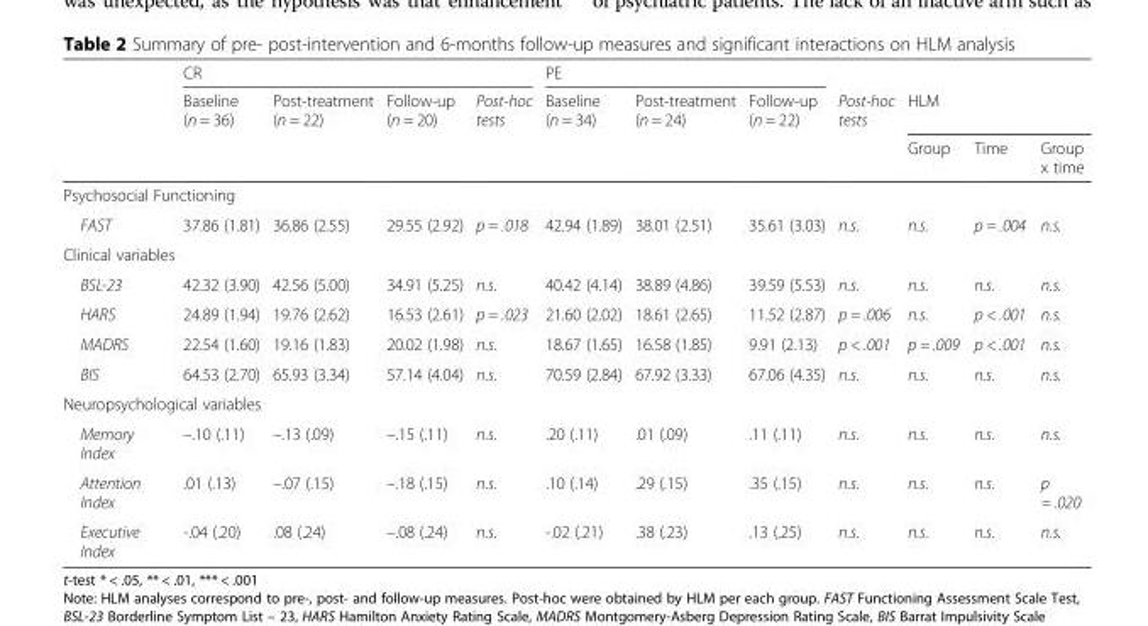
<table><thead><tr><td rowspan="3"></td><td colspan="4">CR</td><td colspan="3">PE</td><td rowspan="3">Post-hoc tests</td><td></td><td></td><td></td></tr><tr><td rowspan="2">Baseline (n = 36)</td><td rowspan="2">Post-treatment (n = 22)</td><td rowspan="2">Follow-up (n = 20)</td><td rowspan="2">Post-hoc tests</td><td rowspan="2">Baseline (n = 34)</td><td rowspan="2">Post-treatment (n = 24)</td><td rowspan="2">Follow-up (n = 22)</td><td colspan="3">HLM</td></tr><tr><td>Group</td><td>Time</td><td>Group x time</td></tr></thead><tbody><tr><td colspan="12">Psychosocial Functioning</td></tr><tr><td>FAST</td><td>37.86 (1.81)</td><td>36.86 (2.55)</td><td>29.55 (2.92)</td><td>p = .018</td><td>42.94 (1.89)</td><td>38.01 (2.51)</td><td>35.61 (3.03)</td><td>n.s.</td><td>n.s.</td><td>p = .004</td><td>n.s.</td></tr><tr><td colspan="12">Clinical variables</td></tr><tr><td>BSL-23</td><td>42.32 (3.90)</td><td>42.56 (5.00)</td><td>34.91 (5.25)</td><td>n.s.</td><td>40.42 (4.14)</td><td>38.89 (4.86)</td><td>39.59 (5.53)</td><td>n.s.</td><td>n.s.</td><td>n.s.</td><td>n.s.</td></tr><tr><td>HARS</td><td>24.89 (1.94)</td><td>19.76 (2.62)</td><td>16.53 (2.61)</td><td>p = .023</td><td>21.60 (2.02)</td><td>18.61 (2.65)</td><td>11.52 (2.87)</td><td>p = .006</td><td>n.s.</td><td>p &lt; .001</td><td>n.s.</td></tr><tr><td>MADRS</td><td>22.54 (1.60)</td><td>19.16 (1.83)</td><td>20.02 (1.98)</td><td>n.s.</td><td>18.67 (1.65)</td><td>16.58 (1.85)</td><td>9.91 (2.13)</td><td>p &lt; .001</td><td>p = .009</td><td>p &lt; .001</td><td>n.s.</td></tr><tr><td>BIS</td><td>64.53 (2.70)</td><td>65.93 (3.34)</td><td>57.14 (4.04)</td><td>n.s.</td><td>70.59 (2.84)</td><td>67.92 (3.33)</td><td>67.06 (4.35)</td><td>n.s.</td><td>n.s.</td><td>n.s.</td><td>n.s.</td></tr><tr><td colspan="12">Neuropsychological variables</td></tr><tr><td>Memory Index</td><td>–.10 (.11)</td><td>–.13 (.09)</td><td>–.15 (.11)</td><td>n.s.</td><td>.20 (.11)</td><td>.01 (.09)</td><td>.11 (.11)</td><td>n.s.</td><td>n.s.</td><td>n.s.</td><td>n.s.</td></tr><tr><td>Attention Index</td><td>.01 (.13)</td><td>–.07 (.15)</td><td>–.18 (.15)</td><td>n.s.</td><td>.10 (.14)</td><td>.29 (.15)</td><td>.35 (.15)</td><td>n.s.</td><td>n.s.</td><td>n.s.</td><td>p = .020</td></tr><tr><td>Executive Index</td><td>-.04 (.20)</td><td>.08 (.24)</td><td>–.08 (.24)</td><td>n.s.</td><td>-.02 (.21)</td><td>.38 (.23)</td><td>.13 (.25)</td><td>n.s.</td><td>n.s.</td><td>n.s.</td><td>n.s.</td></tr></tbody></table>